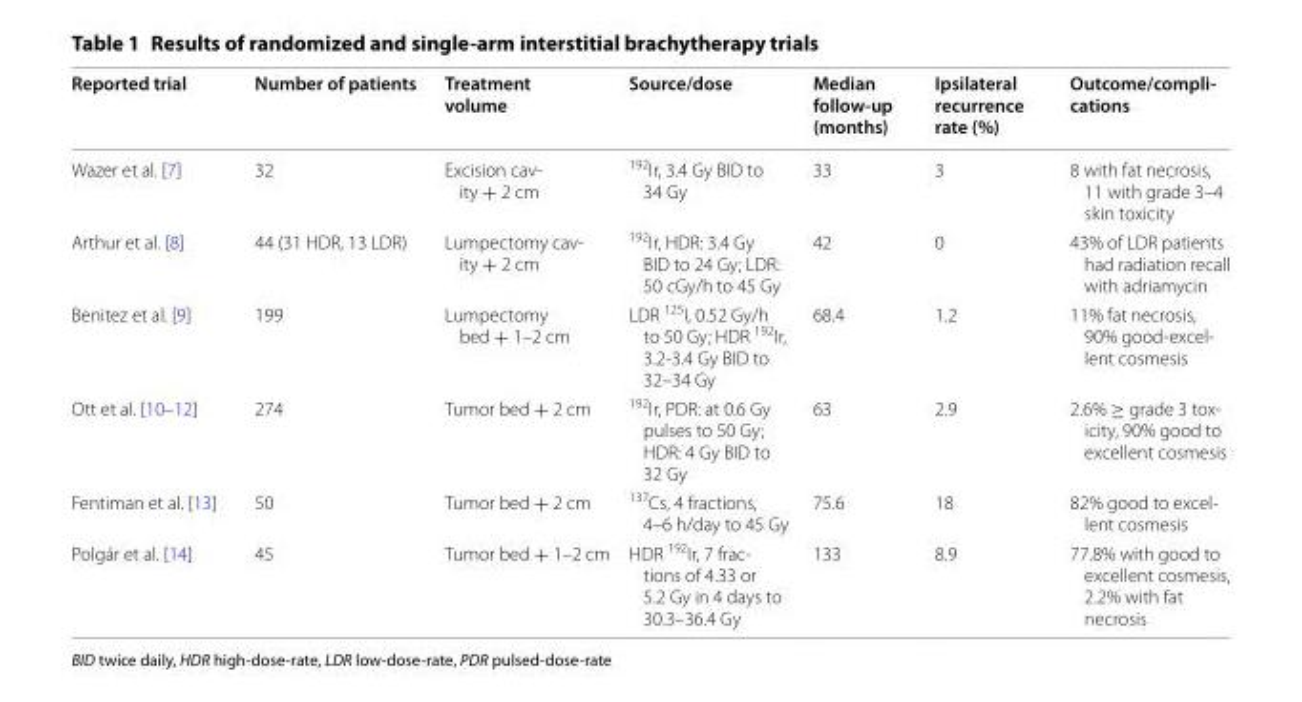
<table><thead><tr><td>Reported trial</td><td>Number of patients</td><td>Treatment volume</td><td>Source/dose</td><td>Median follow‑up (months)</td><td>Ipsilateral recurrence rate (%)</td><td>Outcome/compli‑ cations</td></tr></thead><tbody><tr><td>Wazer et al. [7]</td><td>32</td><td>Excision cav- ity + 2 cm</td><td><sup>192</sup>Ir, 3.4 Gy BID to 34 Gy</td><td>33</td><td>3</td><td>8 with fat necrosis, 11 with grade 3–4 skin toxicity</td></tr><tr><td>Arthur et al. [8]</td><td>44 (31 HDR, 13 LDR)</td><td>Lumpectomy cav- ity + 2 cm</td><td><sup>192</sup>Ir, HDR: 3.4 Gy BID to 24 Gy; LDR: 50 cGy/h to 45 Gy</td><td>42</td><td>0</td><td>43% of LDR patients had radiation recall with adriamycin</td></tr><tr><td>Benitez et al. [9]</td><td>199</td><td>Lumpectomy bed + 1–2 cm</td><td>LDR <sup>125</sup>I, 0.52 Gy/h to 50 Gy; HDR <sup>192</sup>Ir, 3.2-3.4 Gy BID to 32–34 Gy</td><td>68.4</td><td>1.2</td><td>11% fat necrosis, 90% good-excel- lent cosmesis</td></tr><tr><td>Ott et al. [10–12]</td><td>274</td><td>Tumor bed + 2 cm</td><td><sup>192</sup>Ir, PDR: at 0.6 Gy pulses to 50 Gy; HDR: 4 Gy BID to 32 Gy</td><td>63</td><td>2.9</td><td>2.6% ≥ grade 3 tox- icity, 90% good to excellent cosmesis</td></tr><tr><td>Fentiman et al. [13]</td><td>50</td><td>Tumor bed + 2 cm</td><td><sup>137</sup>Cs, 4 fractions, 4–6 h/day to 45 Gy</td><td>75.6</td><td>18</td><td>82% good to excel- lent cosmesis</td></tr><tr><td>Polgár et al. [14]</td><td>45</td><td>Tumor bed + 1–2 cm</td><td>HDR 192Ir, 7 frac- tions of 4.33 or 5.2 Gy in 4 days to 30.3–36.4 Gy</td><td>133</td><td>8.9</td><td>77.8% with good to excellent cosmesis, 2.2% with fat necrosis</td></tr></tbody></table>